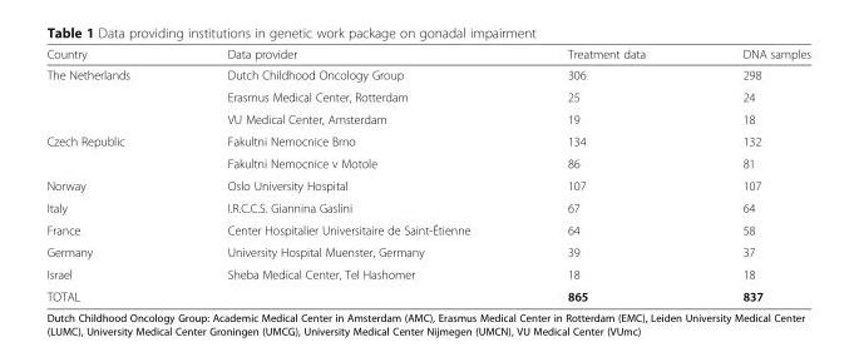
<table><thead><tr><td>Country</td><td>Data provider</td><td>Treatment data</td><td>DNA samples</td></tr></thead><tbody><tr><td rowspan="3">The Netherlands</td><td>Dutch Childhood Oncology Group</td><td>306</td><td>298</td></tr><tr><td>Erasmus Medical Center, Rotterdam</td><td>25</td><td>24</td></tr><tr><td>VU Medical Center, Amsterdam</td><td>19</td><td>18</td></tr><tr><td rowspan="2">Czech Republic</td><td>Fakultni Nemocnice Brno</td><td>134</td><td>132</td></tr><tr><td>Fakultni Nemocnice v Motole</td><td>86</td><td>81</td></tr><tr><td>Norway</td><td>Oslo University Hospital</td><td>107</td><td>107</td></tr><tr><td>Italy</td><td>I.R.C.C.S. Giannina Gaslini</td><td>67</td><td>64</td></tr><tr><td>France</td><td>Center Hospitalier Universitaire de Saint-Étienne</td><td>64</td><td>58</td></tr><tr><td>Germany</td><td>University Hospital Muenster, Germany</td><td>39</td><td>37</td></tr><tr><td>Israel</td><td>Sheba Medical Center, Tel Hashomer</td><td>18</td><td>18</td></tr><tr><td>TOTAL</td><td></td><td>865</td><td>837</td></tr></tbody></table>